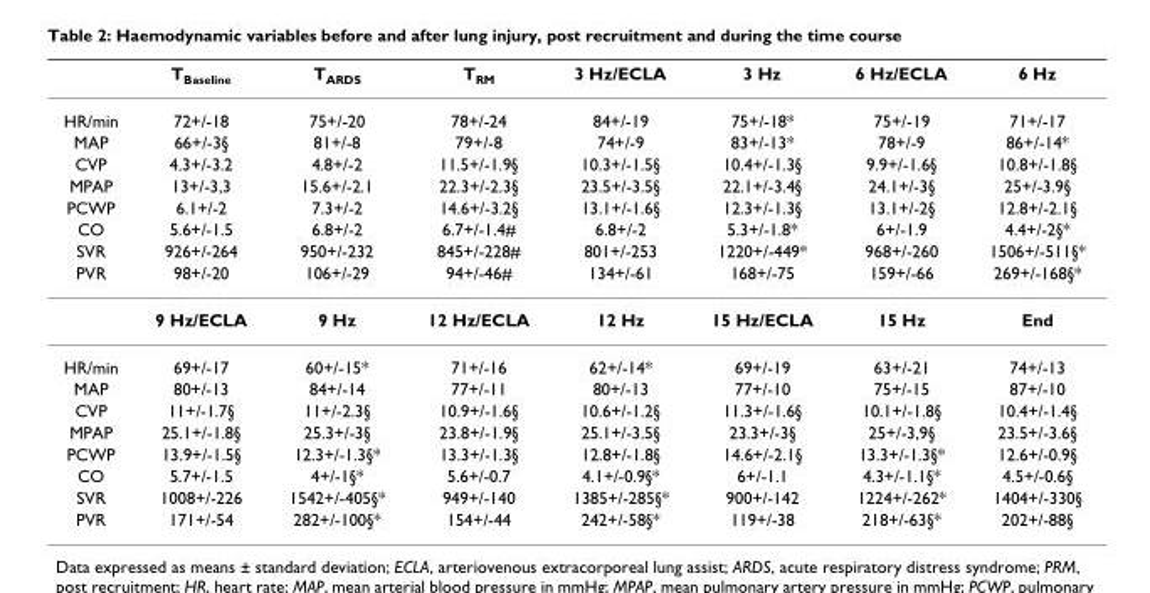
<table><thead><tr><td></td><td>T<sub>Baseline</sub></td><td>T<sub>ARDS</sub></td><td>T<sub>RM</sub></td><td>3 Hz/ECLA</td><td>3 Hz</td><td>6 Hz/ECLA</td><td>6 Hz</td></tr></thead><tbody><tr><td>HR/min</td><td>72+/-18</td><td>75+/-20</td><td>78+/-24</td><td>84+/-19</td><td>75+/-18*</td><td>75+/-19</td><td>71+/-17</td></tr><tr><td>MAP</td><td>66+/-3§</td><td>81+/-8</td><td>79+/-8</td><td>74+/-9</td><td>83+/-13*</td><td>78+/-9</td><td>86+/-14*</td></tr><tr><td>CVP</td><td>4.3+/-3.2</td><td>4.8+/-2</td><td>11.5+/-1.9§</td><td>10.3+/-1.5§</td><td>10.4+/-1.3§</td><td>9.9+/-1.6§</td><td>10.8+/-1.8§</td></tr><tr><td>MPAP</td><td>13+/-3,3</td><td>15.6+/-2.1</td><td>22.3+/-2.3§</td><td>23.5+/-3.5§</td><td>22.1+/-3.4§</td><td>24.1+/-3§</td><td>25+/-3.9§</td></tr><tr><td>PCWP</td><td>6.1+/-2</td><td>7.3+/-2</td><td>14.6+/-3.2§</td><td>13.1+/-1.6§</td><td>12.3+/-1.3§</td><td>13.1+/-2§</td><td>12.8+/-2.1§</td></tr><tr><td>CO</td><td>5.6+/-1.5</td><td>6.8+/-2</td><td>6.7+/-1.4#</td><td>6.8+/-2</td><td>5.3+/-1.8*</td><td>6+/-1.9</td><td>4.4+/-2§*</td></tr><tr><td>SVR</td><td>926+/-264</td><td>950+/-232</td><td>845+/-228#</td><td>801+/-253</td><td>1220+/-449*</td><td>968+/-260</td><td>1506+/-511§*</td></tr><tr><td rowspan="2">PVR</td><td>98+/-20</td><td>106+/-29</td><td>94+/-46#</td><td>134+/-61</td><td>168+/-75</td><td>159+/-66</td><td>269+/-168§*</td></tr><tr><td>9 Hz/ECLA</td><td>9 Hz</td><td>12 Hz/ECLA</td><td>12 Hz</td><td>15 Hz/ECLA</td><td>15 Hz</td><td>End</td></tr><tr><td>HR/min</td><td>69+/-17</td><td>60+/-15*</td><td>71+/-16</td><td>62+/-14*</td><td>69+/-19</td><td>63+/-21</td><td>74+/-13</td></tr><tr><td>MAP</td><td>80+/-13</td><td>84+/-14</td><td>77+/-11</td><td>80+/-13</td><td>77+/-10</td><td>75+/-15</td><td>87+/-10</td></tr><tr><td>CVP</td><td>11+/-1.7§</td><td>11+/-2.3§</td><td>10.9+/-1.6§</td><td>10.6+/-1.2§</td><td>11.3+/-1.6§</td><td>10.1+/-1.8§</td><td>10.4+/-1.4§</td></tr><tr><td>MPAP</td><td>25.1+/-1.8§</td><td>25.3+/-3§</td><td>23.8+/-1.9§</td><td>25.1+/-3.5§</td><td>23.3+/-3§</td><td>25+/-3,9§</td><td>23.5+/-3.6§</td></tr><tr><td>PCWP</td><td>13.9+/-1.5§</td><td>12.3+/-1.3§*</td><td>13.3+/-1.3§</td><td>12.8+/-1.8§</td><td>14.6+/-2.1§</td><td>13.3+/-1.3§*</td><td>12.6+/-0.9§</td></tr><tr><td>CO</td><td>5.7+/-1.5</td><td>4+/-1§*</td><td>5.6+/-0.7</td><td>4.1+/-0.9§*</td><td>6+/-1.1</td><td>4.3+/-1.1§*</td><td>4.5+/-0.6§</td></tr><tr><td>SVR</td><td>1008+/-226</td><td>1542+/-405§*</td><td>949+/-140</td><td>1385+/-285§*</td><td>900+/-142</td><td>1224+/-262*</td><td>1404+/-330§</td></tr><tr><td>PVR</td><td>171+/-54</td><td>282+/-100§*</td><td>154+/-44</td><td>242+/-58§*</td><td>119+/-38</td><td>218+/-63§*</td><td>202+/-88§</td></tr></tbody></table>